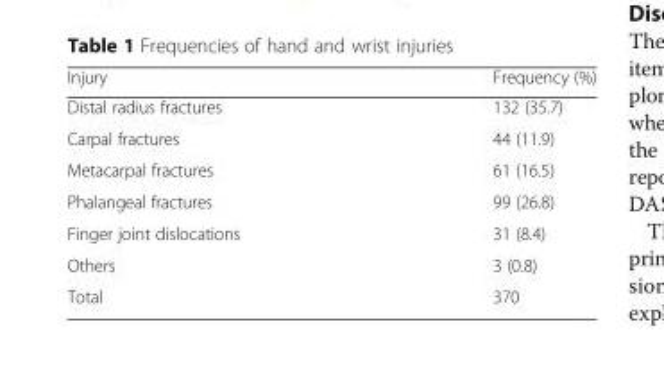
<table><thead><tr><td>Injury</td><td>Frequency (%)</td></tr></thead><tbody><tr><td>Distal radius fractures</td><td>132 (35.7)</td></tr><tr><td>Carpal fractures</td><td>44 (11.9)</td></tr><tr><td>Metacarpal fractures</td><td>61 (16.5)</td></tr><tr><td>Phalangeal fractures</td><td>99 (26.8)</td></tr><tr><td>Finger joint dislocations</td><td>31 (8.4)</td></tr><tr><td>Others</td><td>3 (0.8)</td></tr><tr><td>Total</td><td>370</td></tr></tbody></table>